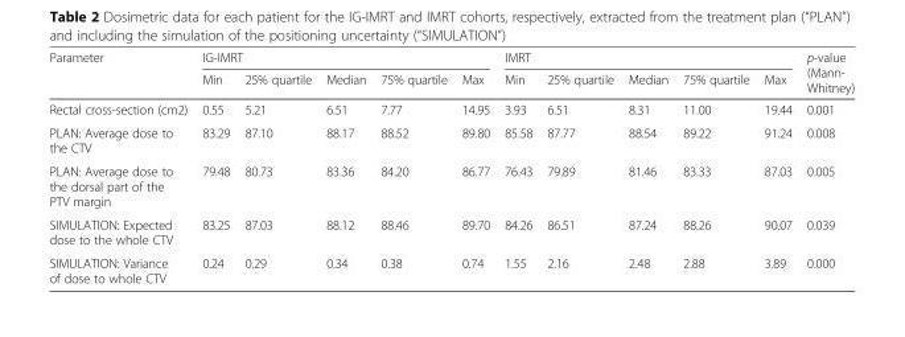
<table><thead><tr><td rowspan="2">Parameter</td><td colspan="5">IG-IMRT</td><td colspan="5">IMRT</td><td rowspan="2">p-value (Mann- Whitney)</td></tr><tr><td>Min</td><td>25% quartile</td><td>Median</td><td>75% quartile</td><td>Max</td><td>Min</td><td>25% quartile</td><td>Median</td><td>75% quartile</td><td>Max</td></tr></thead><tbody><tr><td>Rectal cross-section (cm2)</td><td>0.55</td><td>5.21</td><td>6.51</td><td>7.77</td><td>14.95</td><td>3.93</td><td>6.51</td><td>8.31</td><td>11.00</td><td>19.44</td><td>0.001</td></tr><tr><td>PLAN: Average dose to the CTV</td><td>83.29</td><td>87.10</td><td>88.17</td><td>88.52</td><td>89.80</td><td>85.58</td><td>87.77</td><td>88.54</td><td>89.22</td><td>91.24</td><td>0.008</td></tr><tr><td>PLAN: Average dose to the dorsal part of the PTV margin</td><td>79.48</td><td>80.73</td><td>83.36</td><td>84.20</td><td>86.77</td><td>76.43</td><td>79.89</td><td>81.46</td><td>83.33</td><td>87.03</td><td>0.005</td></tr><tr><td>SIMULATION: Expected dose to the whole CTV</td><td>83.25</td><td>87.03</td><td>88.12</td><td>88.46</td><td>89.70</td><td>84.26</td><td>86.51</td><td>87.24</td><td>88.26</td><td>90.07</td><td>0.039</td></tr><tr><td>SIMULATION: Variance of dose to whole CTV</td><td>0.24</td><td>0.29</td><td>0.34</td><td>0.38</td><td>0.74</td><td>1.55</td><td>2.16</td><td>2.48</td><td>2.88</td><td>3.89</td><td>0.000</td></tr></tbody></table>